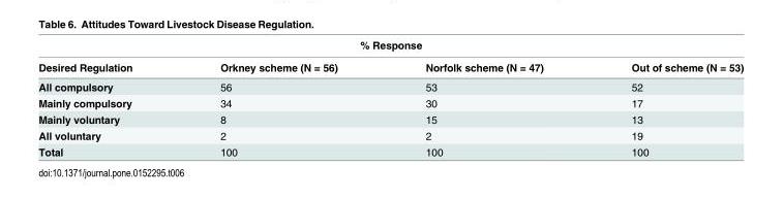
<table><thead><tr><td colspan="4">% Response</td></tr><tr><td>Desired Regulation</td><td>Orkney scheme (N = 56)</td><td>Norfolk scheme (N = 47)</td><td>Out of scheme (N = 53)</td></tr></thead><tbody><tr><td>All compulsory</td><td>56</td><td>53</td><td>52</td></tr><tr><td>Mainly compulsory</td><td>34</td><td>30</td><td>17</td></tr><tr><td>Mainly voluntary</td><td>8</td><td>15</td><td>13</td></tr><tr><td>All voluntary</td><td>2</td><td>2</td><td>19</td></tr><tr><td>Total</td><td>100</td><td>100</td><td>100</td></tr></tbody></table>